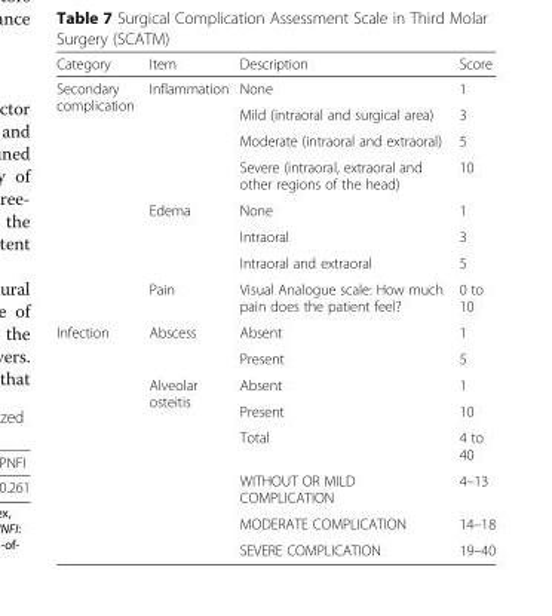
<table><thead><tr><td>Category</td><td>Item</td><td>Description</td><td>Score</td></tr></thead><tbody><tr><td rowspan="8">Secondary complication</td><td rowspan="4">Inflammation</td><td>None</td><td>1</td></tr><tr><td>Mild (intraoral and surgical area)</td><td>3</td></tr><tr><td>Moderate (intraoral and extraoral)</td><td>5</td></tr><tr><td>Severe (intraoral, extraoral and other regions of the head)</td><td>10</td></tr><tr><td rowspan="3">Edema</td><td>None</td><td>1</td></tr><tr><td>Intraoral</td><td>3</td></tr><tr><td>Intraoral and extraoral</td><td>5</td></tr><tr><td>Pain</td><td>Visual Analogue scale: How much pain does the patient feel?</td><td>0 to 10</td></tr><tr><td rowspan="8">Infection</td><td rowspan="2">Abscess</td><td>Absent</td><td>1</td></tr><tr><td>Present</td><td>5</td></tr><tr><td rowspan="2">Alveolar osteitis</td><td>Absent</td><td>1</td></tr><tr><td>Present</td><td>10</td></tr><tr><td rowspan="4"></td><td>Total</td><td>4 to 40</td></tr><tr><td>WITHOUT OR MILD COMPLICATION</td><td>4–13</td></tr><tr><td>MODERATE COMPLICATION</td><td>14–18</td></tr><tr><td>SEVERE COMPLICATION</td><td>19–40</td></tr></tbody></table>